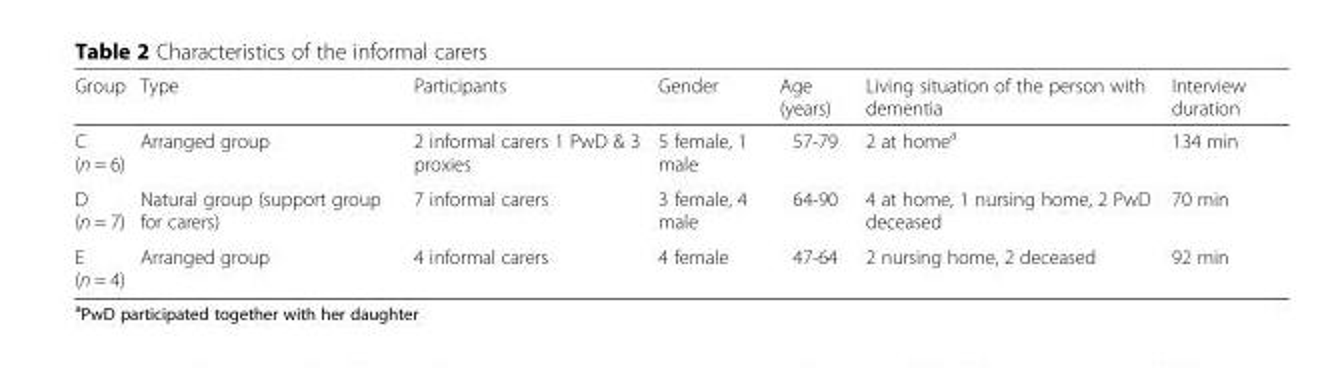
<table><thead><tr><td>Group</td><td>Type</td><td>Participants</td><td>Gender</td><td>Age (years)</td><td>Living situation of the person with dementia</td><td>Interview duration</td></tr></thead><tbody><tr><td>C (n = 6)</td><td>Arranged group</td><td>2 informal carers 1 PwD &amp; 3 proxies</td><td>5 female, 1 male</td><td>57-79</td><td>2 at home<sup>a</sup></td><td>134 min</td></tr><tr><td>D (n = 7)</td><td>Natural group (support group for carers)</td><td>7 informal carers</td><td>3 female, 4 male</td><td>64-90</td><td>4 at home, 1 nursing home, 2 PwD deceased</td><td>70 min</td></tr><tr><td>E (n = 4)</td><td>Arranged group</td><td>4 informal carers</td><td>4 female</td><td>47-64</td><td>2 nursing home, 2 deceased</td><td>92 min</td></tr></tbody></table>